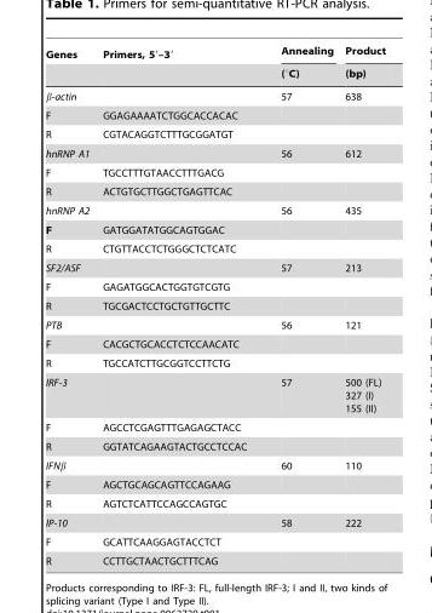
<table><thead><tr><td rowspan="2">Genes</td><td rowspan="2">Primers, 5′–3′</td><td rowspan="2">Annealing (°C)</td><td rowspan="2">Product (bp)</td></tr><tr></tr></thead><tbody><tr><td>β-actin</td><td></td><td>57</td><td>638</td></tr><tr><td>F</td><td>GGAGAAAATCTGGCACCACAC</td><td></td><td></td></tr><tr><td>R</td><td>CGTACAGGTCTTTGCGGATGT</td><td></td><td></td></tr><tr><td>hnRNP A1</td><td></td><td>56</td><td>612</td></tr><tr><td>F</td><td>TGCCTTTGTAACCTTTGACG</td><td></td><td></td></tr><tr><td>R</td><td>ACTGTGCTTGGCTGAGTTCAC</td><td></td><td></td></tr><tr><td>hnRNP A2</td><td></td><td>56</td><td>435</td></tr><tr><td>F</td><td>GATGGATATGGCAGTGGAC</td><td></td><td></td></tr><tr><td>R</td><td>CTGTTACCTCTGGGCTCTCATC</td><td></td><td></td></tr><tr><td>SF2/ASF</td><td></td><td>57</td><td>213</td></tr><tr><td>F</td><td>GAGATGGCACTGGTGTCGTG</td><td></td><td></td></tr><tr><td>R</td><td>TGCGACTCCTGCTGTTGCTTC</td><td></td><td></td></tr><tr><td>PTB</td><td></td><td>56</td><td>121</td></tr><tr><td>F</td><td>CACGCTGCACCTCTCCAACATC</td><td></td><td></td></tr><tr><td>R</td><td>TGCCATCTTGCGGTCCTTCTG</td><td></td><td></td></tr><tr><td>IRF-3</td><td></td><td>57</td><td>500 (FL) 327 (I) 155 (II)</td></tr><tr><td>F</td><td>AGCCTCGAGTTTGAGAGCTACC</td><td></td><td></td></tr><tr><td>R</td><td>GGTATCAGAAGTACTGCCTCCAC</td><td></td><td></td></tr><tr><td>IFNβ</td><td></td><td>60</td><td>110</td></tr><tr><td>F</td><td>AGCTGCAGCAGTTCCAGAAG</td><td></td><td></td></tr><tr><td>R</td><td>AGTCTCATTCCAGCCAGTGC</td><td></td><td></td></tr><tr><td>IP-10</td><td></td><td>58</td><td>222</td></tr><tr><td>F</td><td>GCATTCAAGGAGTACCTCT</td><td></td><td></td></tr><tr><td>R</td><td>CCTTGCTAACTGCTTTCAG</td><td></td><td></td></tr></tbody></table>